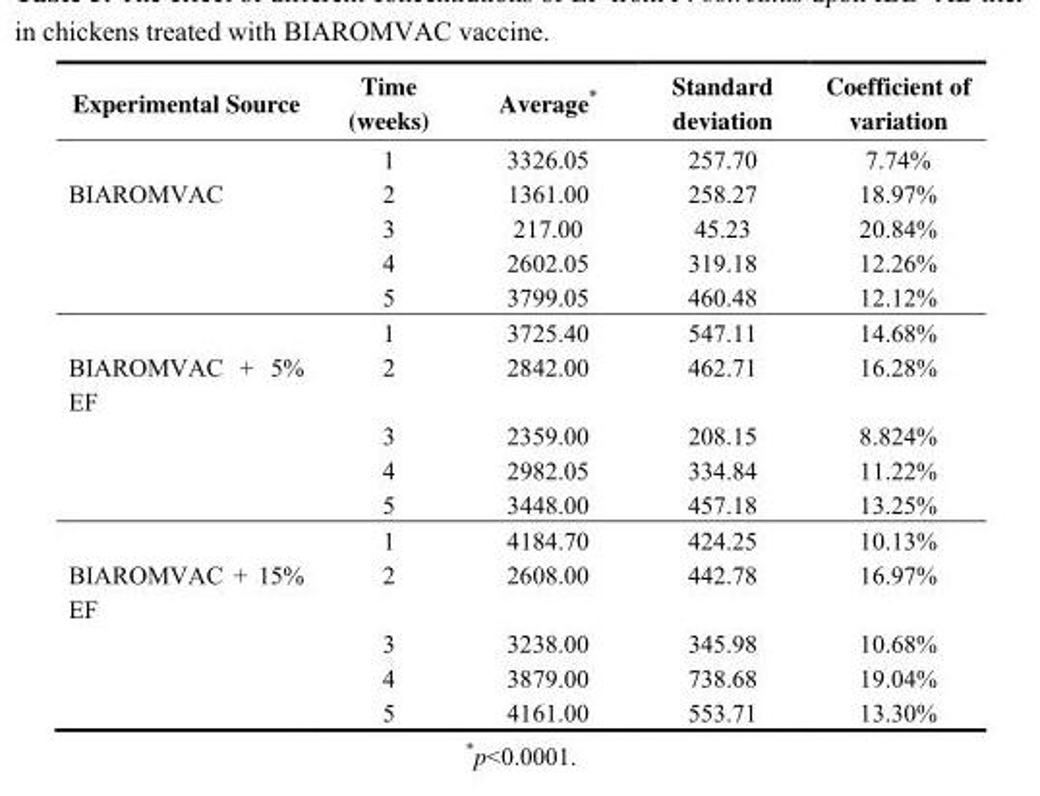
<table><thead><tr><td>Experimental Source</td><td>Time (weeks)</td><td>Average*</td><td>Standard deviation</td><td>Coefficient of variation</td></tr></thead><tbody><tr><td></td><td>1</td><td>3326.05</td><td>257.70</td><td>7.74%</td></tr><tr><td rowspan="5">BIAROMVAC</td><td>2</td><td>1361.00</td><td>258.27</td><td>18.97%</td></tr><tr><td>3</td><td>217.00</td><td>45.23</td><td>20.84%</td></tr><tr><td>4</td><td>2602.05</td><td>319.18</td><td>12.26%</td></tr><tr><td>5</td><td>3799.05</td><td>460.48</td><td>12.12%</td></tr><tr><td>1</td><td>3725.40</td><td>547.11</td><td>14.68%</td></tr><tr><td rowspan="5">BIAROMVAC + 5% EF</td><td>2</td><td>2842.00</td><td>462.71</td><td>16.28%</td></tr><tr><td>3</td><td>2359.00</td><td>208.15</td><td>8.824%</td></tr><tr><td>4</td><td>2982.05</td><td>334.84</td><td>11.22%</td></tr><tr><td>5</td><td>3448.00</td><td>457.18</td><td>13.25%</td></tr><tr><td>1</td><td>4184.70</td><td>424.25</td><td>10.13%</td></tr><tr><td rowspan="4">BIAROMVAC + 15% EF</td><td>2</td><td>2608.00</td><td>442.78</td><td>16.97%</td></tr><tr><td>3</td><td>3238.00</td><td>345.98</td><td>10.68%</td></tr><tr><td>4</td><td>3879.00</td><td>738.68</td><td>19.04%</td></tr><tr><td>5</td><td>4161.00</td><td>553.71</td><td>13.30%</td></tr></tbody></table>